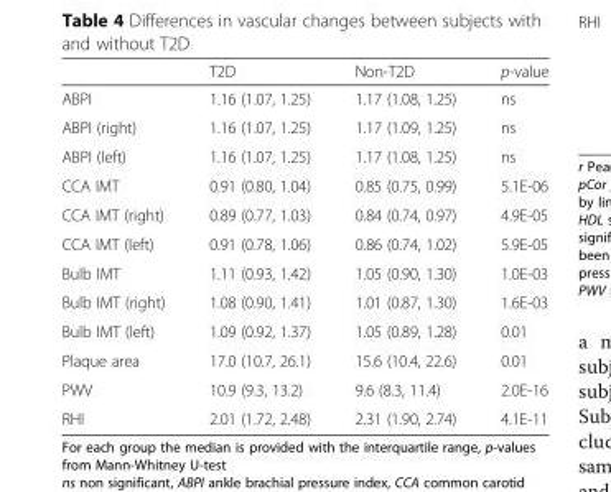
<table><thead><tr><td></td><td>T2D</td><td>Non-T2D</td><td>p-value</td></tr></thead><tbody><tr><td>ABPI</td><td>1.16 (1.07, 1.25)</td><td>1.17 (1.08, 1.25)</td><td>ns</td></tr><tr><td>ABPI (right)</td><td>1.16 (1.07, 1.25)</td><td>1.17 (1.09, 1.25)</td><td>ns</td></tr><tr><td>ABPI (left)</td><td>1.16 (1.07, 1.25)</td><td>1.17 (1.08, 1.25)</td><td>ns</td></tr><tr><td>CCA IMT</td><td>0.91 (0.80, 1.04)</td><td>0.85 (0.75, 0.99)</td><td>5.1E-06</td></tr><tr><td>CCA IMT (right)</td><td>0.89 (0.77, 1.03)</td><td>0.84 (0.74, 0.97)</td><td>4.9E-05</td></tr><tr><td>CCA IMT (left)</td><td>0.91 (0.78, 1.06)</td><td>0.86 (0.74, 1.02)</td><td>5.9E-05</td></tr><tr><td>Bulb IMT</td><td>1.11 (0.93, 1.42)</td><td>1.05 (0.90, 1.30)</td><td>1.0E-03</td></tr><tr><td>Bulb IMT (right)</td><td>1.08 (0.90, 1.41)</td><td>1.01 (0.87, 1.30)</td><td>1.6E-03</td></tr><tr><td>Bulb IMT (left)</td><td>1.09 (0.92, 1.37)</td><td>1.05 (0.89, 1.28)</td><td>0.01</td></tr><tr><td>Plaque area</td><td>17.0 (10.7, 26.1)</td><td>15.6 (10.4, 22.6)</td><td>0.01</td></tr><tr><td>PWV</td><td>10.9 (9.3, 13.2)</td><td>9.6 (8.3, 11.4)</td><td>2.0E-16</td></tr><tr><td>RHI</td><td>2.01 (1.72, 2.48)</td><td>2.31 (1.90, 2.74)</td><td>4.1E-11</td></tr></tbody></table>